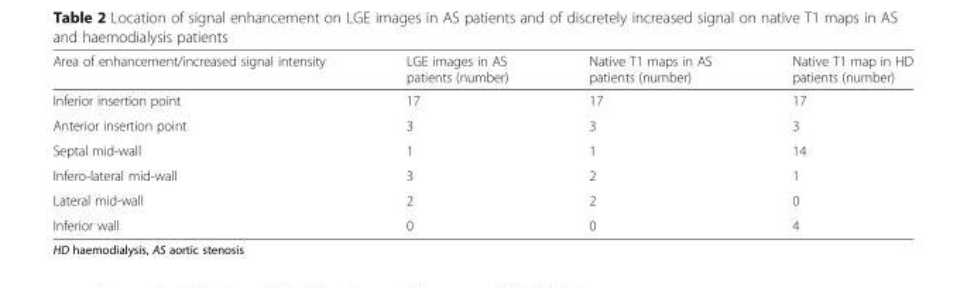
<table><thead><tr><td>Area of enhancement/increased signal intensity</td><td>LGE images in AS patients (number)</td><td>Native T1 maps in AS patients (number)</td><td>Native T1 map in HD patients (number)</td></tr></thead><tbody><tr><td>Inferior insertion point</td><td>17</td><td>17</td><td>17</td></tr><tr><td>Anterior insertion point</td><td>3</td><td>3</td><td>3</td></tr><tr><td>Septal mid-wall</td><td>1</td><td>1</td><td>14</td></tr><tr><td>Infero-lateral mid-wall</td><td>3</td><td>2</td><td>1</td></tr><tr><td>Lateral mid-wall</td><td>2</td><td>2</td><td>0</td></tr><tr><td>Inferior wall</td><td>0</td><td>0</td><td>4</td></tr></tbody></table>